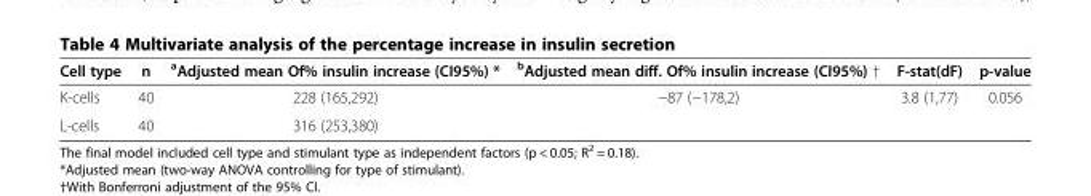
<table><thead><tr><td>Cell type</td><td>n</td><td><sup>a</sup>Adjusted mean Of% insulin increase (CI95%) *</td><td><sup>b</sup>Adjusted mean diff. Of% insulin increase (CI95%) †</td><td>F-stat(dF)</td><td>p-value</td></tr></thead><tbody><tr><td>K-cells</td><td>40</td><td>228 (165,292)</td><td>−87 (−178,2)</td><td>3.8 (1,77)</td><td>0.056</td></tr><tr><td>L-cells</td><td>40</td><td>316 (253,380)</td><td></td><td></td><td></td></tr></tbody></table>